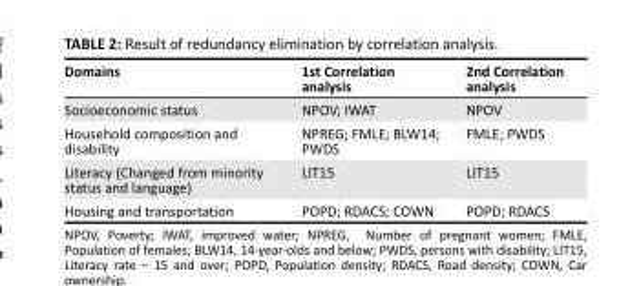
<table><thead><tr><td>Domains</td><td>1st Correlation analysis</td><td>2nd Correlation analysis</td></tr></thead><tbody><tr><td>Socioeconomic status</td><td>NPOV; IWAT</td><td>NPOV</td></tr><tr><td>Household composition and disability</td><td>NPREG; FMLE; BLW14; PWDS</td><td>FMLE; PWDS</td></tr><tr><td>Literacy (Changed from minority status and language)</td><td>LIT15</td><td>LIT15</td></tr><tr><td>Housing and transportation</td><td>POPD; RDACS; COWN</td><td>POPD; RDACS</td></tr></tbody></table>